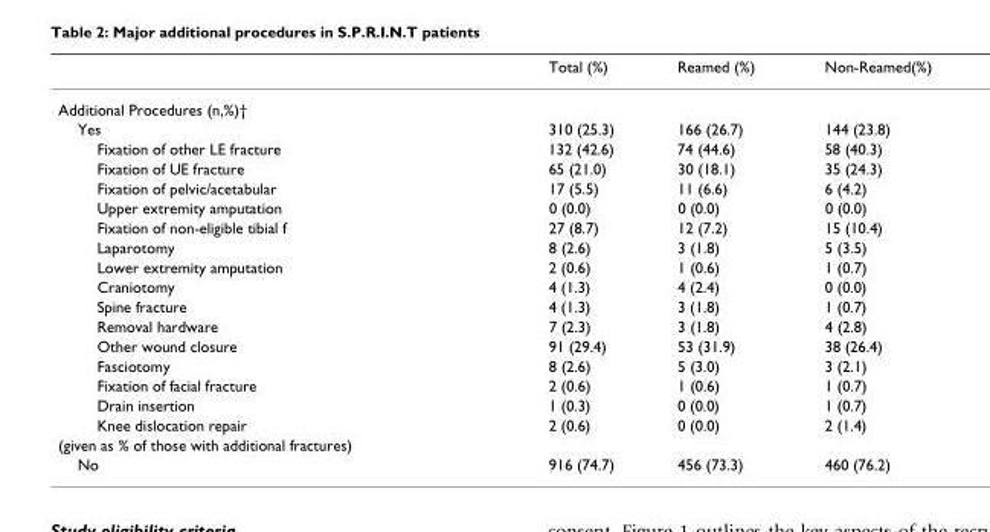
<table><thead><tr><td></td><td>Total (%)</td><td>Reamed (%)</td><td>Non-Reamed(%)</td></tr></thead><tbody><tr><td colspan="4">Additional Procedures (n,%)†</td></tr><tr><td>Yes</td><td>310 (25.3)</td><td>166 (26.7)</td><td>144 (23.8)</td></tr><tr><td>Fixation of other LE fracture</td><td>132 (42.6)</td><td>74 (44.6)</td><td>58 (40.3)</td></tr><tr><td>Fixation of UE fracture</td><td>65 (21.0)</td><td>30 (18.1)</td><td>35 (24.3)</td></tr><tr><td>Fixation of pelvic/acetabular</td><td>17 (5.5)</td><td>11 (6.6)</td><td>6 (4.2)</td></tr><tr><td>Upper extremity amputation</td><td>0 (0.0)</td><td>0 (0.0)</td><td>0 (0.0)</td></tr><tr><td>Fixation of non-eligible tibial f</td><td>27 (8.7)</td><td>12 (7.2)</td><td>15 (10.4)</td></tr><tr><td>Laparotomy</td><td>8 (2.6)</td><td>3 (1.8)</td><td>5 (3.5)</td></tr><tr><td>Lower extremity amputation</td><td>2 (0.6)</td><td>1 (0.6)</td><td>1 (0.7)</td></tr><tr><td>Craniotomy</td><td>4 (1.3)</td><td>4 (2.4)</td><td>0 (0.0)</td></tr><tr><td>Spine fracture</td><td>4 (1.3)</td><td>3 (1.8)</td><td>1 (0.7)</td></tr><tr><td>Removal hardware</td><td>7 (2.3)</td><td>3 (1.8)</td><td>4 (2.8)</td></tr><tr><td>Other wound closure</td><td>91 (29.4)</td><td>53 (31.9)</td><td>38 (26.4)</td></tr><tr><td>Fasciotomy</td><td>8 (2.6)</td><td>5 (3.0)</td><td>3 (2.1)</td></tr><tr><td>Fixation of facial fracture</td><td>2 (0.6)</td><td>1 (0.6)</td><td>1 (0.7)</td></tr><tr><td>Drain insertion</td><td>1 (0.3)</td><td>0 (0.0)</td><td>1 (0.7)</td></tr><tr><td>Knee dislocation repair</td><td>2 (0.6)</td><td>0 (0.0)</td><td>2 (1.4)</td></tr><tr><td colspan="4">(given as % of those with additional fractures)</td></tr><tr><td>No</td><td>916 (74.7)</td><td>456 (73.3)</td><td>460 (76.2)</td></tr></tbody></table>